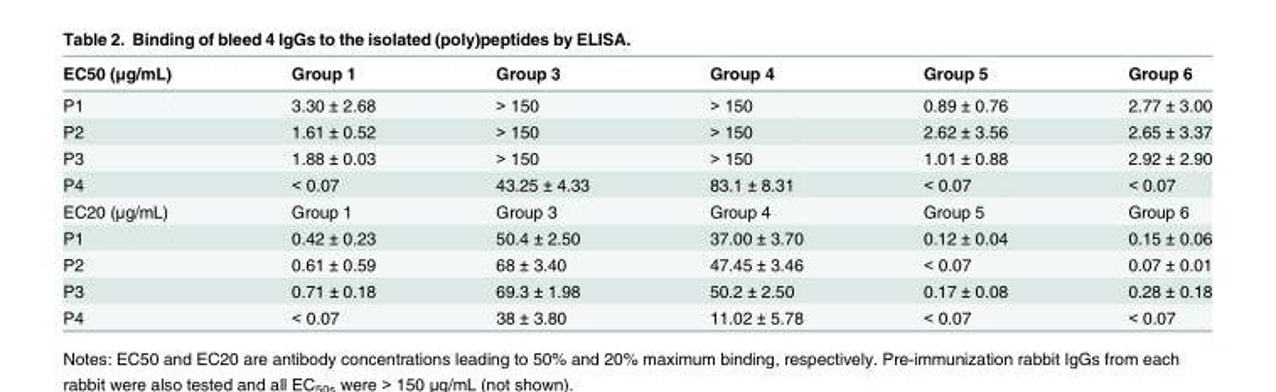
<table><thead><tr><td>EC50 (μg/mL)</td><td>Group 1</td><td>Group 3</td><td>Group 4</td><td>Group 5</td><td>Group 6</td></tr></thead><tbody><tr><td>P1</td><td>3.30 ± 2.68</td><td>&gt; 150</td><td>&gt; 150</td><td>0.89 ± 0.76</td><td>2.77 ± 3.00</td></tr><tr><td>P2</td><td>1.61 ± 0.52</td><td>&gt; 150</td><td>&gt; 150</td><td>2.62 ± 3.56</td><td>2.65 ± 3.37</td></tr><tr><td>P3</td><td>1.88 ± 0.03</td><td>&gt; 150</td><td>&gt; 150</td><td>1.01 ± 0.88</td><td>2.92 ± 2.90</td></tr><tr><td>P4</td><td>&lt; 0.07</td><td>43.25 ± 4.33</td><td>83.1 ± 8.31</td><td>&lt; 0.07</td><td>&lt; 0.07</td></tr><tr><td>EC20 (μg/mL)</td><td>Group 1</td><td>Group 3</td><td>Group 4</td><td>Group 5</td><td>Group 6</td></tr><tr><td>P1</td><td>0.42 ± 0.23</td><td>50.4 ± 2.50</td><td>37.00 ± 3.70</td><td>0.12 ± 0.04</td><td>0.15 ± 0.06</td></tr><tr><td>P2</td><td>0.61 ± 0.59</td><td>68 ± 3.40</td><td>47.45 ± 3.46</td><td>&lt; 0.07</td><td>0.07 ± 0.01</td></tr><tr><td>P3</td><td>0.71 ± 0.18</td><td>69.3 ± 1.98</td><td>50.2 ± 2.50</td><td>0.17 ± 0.08</td><td>0.28 ± 0.18</td></tr><tr><td>P4</td><td>&lt; 0.07</td><td>38 ± 3.80</td><td>11.02 ± 5.78</td><td>&lt; 0.07</td><td>&lt; 0.07</td></tr></tbody></table>